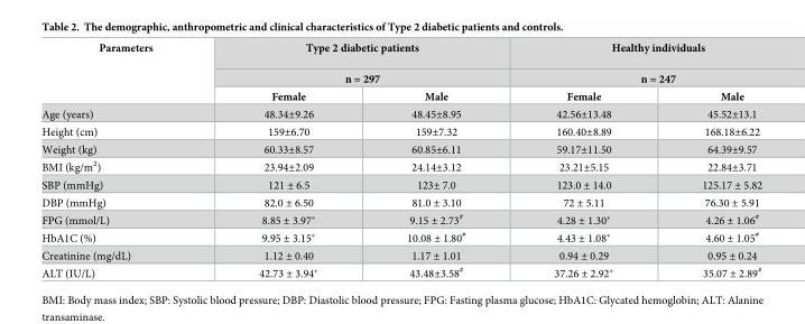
<table><thead><tr><td rowspan="3">Parameters</td><td rowspan="2" colspan="2">Type 2 diabetic patients n = 297</td><td rowspan="2" colspan="2">Healthy individuals n = 247</td></tr><tr></tr><tr><td>Female</td><td>Male</td><td>Female</td><td>Male</td></tr></thead><tbody><tr><td>Age (years)</td><td>48.34±9.26</td><td>48.45±8.95</td><td>42.56±13.48</td><td>45.52±13.1</td></tr><tr><td>Height (cm)</td><td>159±6.70</td><td>159±7.32</td><td>160.40±8.89</td><td>168.18±6.22</td></tr><tr><td>Weight (kg)</td><td>60.33±8.57</td><td>60.85±6.11</td><td>59.17±11.50</td><td>64.39±9.57</td></tr><tr><td>BMI (kg/m<sup>2</sup>)</td><td>23.94±2.09</td><td>24.14±3.12</td><td>23.21±5.15</td><td>22.84±3.71</td></tr><tr><td>SBP (mmHg)</td><td>121 ± 6.5</td><td>123± 7.0</td><td>123.0 ± 14.0</td><td>125.17 ± 5.82</td></tr><tr><td>DBP (mmHg)</td><td>82.0 ± 6.50</td><td>81.0 ± 3.10</td><td>72 ± 5.11</td><td>76.30 ± 5.91</td></tr><tr><td>FPG (mmol/L)</td><td>8.85 ± 3.97*</td><td>9.15 ± 2.73<sup>#</sup></td><td>4.28 ± 1.30*</td><td>4.26 ± 1.06<sup>#</sup></td></tr><tr><td>HbA1C (%)</td><td>9.95 ± 3.15*</td><td>10.08 ± 1.80<sup>#</sup></td><td>4.43 ± 1.08*</td><td>4.60 ± 1.05<sup>#</sup></td></tr><tr><td>Creatinine (mg/dL)</td><td>1.12 ± 0.40</td><td>1.17 ± 1.01</td><td>0.94 ± 0.29</td><td>0.95 ± 0.24</td></tr><tr><td>ALT (IU/L)</td><td>42.73 ± 3.94*</td><td>43.48±3.58<sup>#</sup></td><td>37.26 ± 2.92*</td><td>35.07 ± 2.89<sup>#</sup></td></tr></tbody></table>